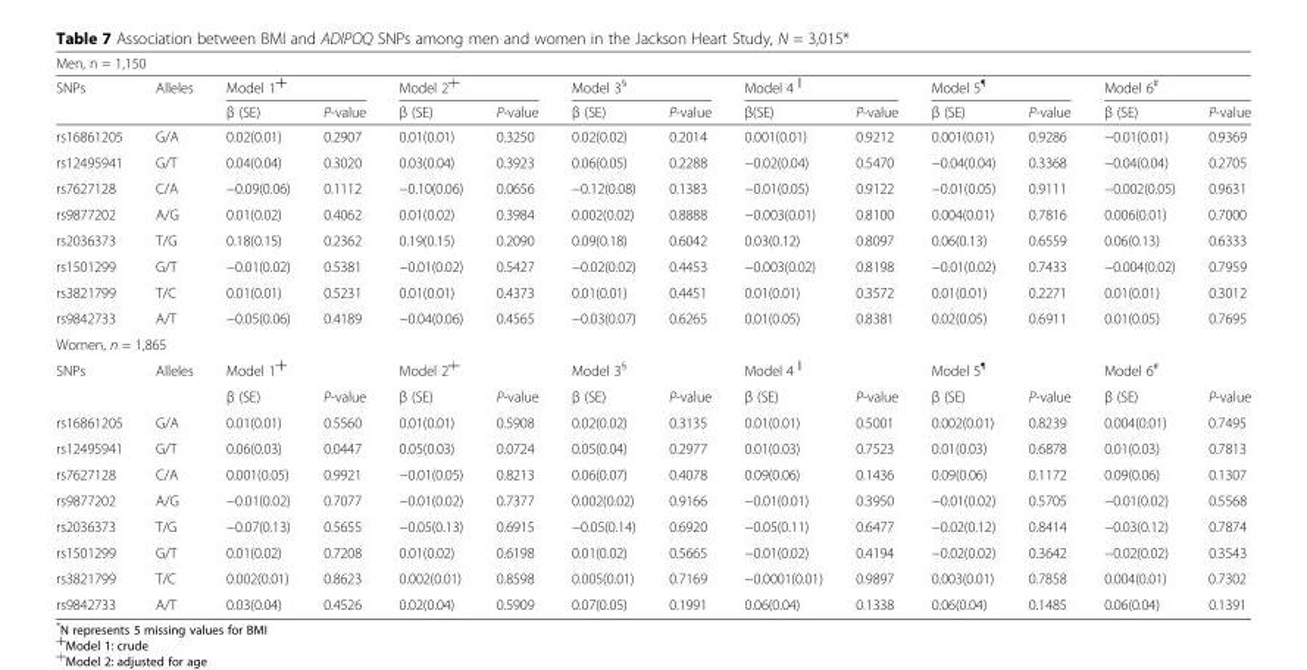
<table><thead><tr><td colspan="14">Men, n = 1,150</td></tr><tr><td rowspan="2">SNPs</td><td rowspan="2">Alleles</td><td colspan="2">Model 1<sup>┼</sup></td><td colspan="2">Model 2<sup>╪</sup></td><td colspan="2">Model 3<sup>§</sup></td><td colspan="2">Model 4<sup>║</sup></td><td colspan="2">Model 5<sup>¶</sup></td><td colspan="2">Model 6<sup>#</sup></td></tr><tr><td>β (SE)</td><td>P-value</td><td>β (SE)</td><td>P-value</td><td>β (SE)</td><td>P-value</td><td>β(SE)</td><td>P-value</td><td>β (SE)</td><td>P-value</td><td>β (SE)</td><td>P-value</td></tr></thead><tbody><tr><td>rs16861205</td><td>G/A</td><td>0.02(0.01)</td><td>0.2907</td><td>0.01(0.01)</td><td>0.3250</td><td>0.02(0.02)</td><td>0.2014</td><td>0.001(0.01)</td><td>0.9212</td><td>0.001(0.01)</td><td>0.9286</td><td>−0.01(0.01)</td><td>0.9369</td></tr><tr><td>rs12495941</td><td>G/T</td><td>0.04(0.04)</td><td>0.3020</td><td>0.03(0.04)</td><td>0.3923</td><td>0.06(0.05)</td><td>0.2288</td><td>−0.02(0.04)</td><td>0.5470</td><td>−0.04(0.04)</td><td>0.3368</td><td>−0.04(0.04)</td><td>0.2705</td></tr><tr><td>rs7627128</td><td>C/A</td><td>−0.09(0.06)</td><td>0.1112</td><td>−0.10(0.06)</td><td>0.0656</td><td>−0.12(0.08)</td><td>0.1383</td><td>−0.01(0.05)</td><td>0.9122</td><td>−0.01(0.05)</td><td>0.9111</td><td>−0.002(0.05)</td><td>0.9631</td></tr><tr><td>rs9877202</td><td>A/G</td><td>0.01(0.02)</td><td>0.4062</td><td>0.01(0.02)</td><td>0.3984</td><td>0.002(0.02)</td><td>0.8888</td><td>−0.003(0.01)</td><td>0.8100</td><td>0.004(0.01)</td><td>0.7816</td><td>0.006(0.01)</td><td>0.7000</td></tr><tr><td>rs2036373</td><td>T/G</td><td>0.18(0.15)</td><td>0.2362</td><td>0.19(0.15)</td><td>0.2090</td><td>0.09(0.18)</td><td>0.6042</td><td>0.03(0.12)</td><td>0.8097</td><td>0.06(0.13)</td><td>0.6559</td><td>0.06(0.13)</td><td>0.6333</td></tr><tr><td>rs1501299</td><td>G/T</td><td>−0.01(0.02)</td><td>0.5381</td><td>−0.01(0.02)</td><td>0.5427</td><td>−0.02(0.02)</td><td>0.4453</td><td>−0.003(0.02)</td><td>0.8198</td><td>−0.01(0.02)</td><td>0.7433</td><td>−0.004(0.02)</td><td>0.7959</td></tr><tr><td>rs3821799</td><td>T/C</td><td>0.01(0.01)</td><td>0.5231</td><td>0.01(0.01)</td><td>0.4373</td><td>0.01(0.01)</td><td>0.4451</td><td>0.01(0.01)</td><td>0.3572</td><td>0.01(0.01)</td><td>0.2271</td><td>0.01(0.01)</td><td>0.3012</td></tr><tr><td>rs9842733</td><td>A/T</td><td>−0.05(0.06)</td><td>0.4189</td><td>−0.04(0.06)</td><td>0.4565</td><td>−0.03(0.07)</td><td>0.6265</td><td>0.01(0.05)</td><td>0.8381</td><td>0.02(0.05)</td><td>0.6911</td><td>0.01(0.05)</td><td>0.7695</td></tr><tr><td colspan="14">Women, n = 1,865</td></tr><tr><td rowspan="2">SNPs</td><td>Alleles</td><td colspan="2">Model 1<sup>┼</sup></td><td colspan="2">Model 2<sup>╪</sup></td><td colspan="2">Model 3<sup>§</sup></td><td colspan="2">Model 4<sup>║</sup></td><td colspan="2">Model 5<sup>¶</sup></td><td colspan="2">Model 6<sup>#</sup></td></tr><tr><td></td><td>β (SE)</td><td>P-value</td><td>β (SE)</td><td>P-value</td><td>β (SE)</td><td>P-value</td><td>β (SE)</td><td>P-value</td><td>β (SE)</td><td>P-value</td><td>β (SE)</td><td>P-value</td></tr><tr><td>rs16861205</td><td>G/A</td><td>0.01(0.01)</td><td>0.5560</td><td>0.01(0.01)</td><td>0.5908</td><td>0.02(0.02)</td><td>0.3135</td><td>0.01(0.01)</td><td>0.5001</td><td>0.002(0.01)</td><td>0.8239</td><td>0.004(0.01)</td><td>0.7495</td></tr><tr><td>rs12495941</td><td>G/T</td><td>0.06(0.03)</td><td>0.0447</td><td>0.05(0.03)</td><td>0.0724</td><td>0.05(0.04)</td><td>0.2977</td><td>0.01(0.03)</td><td>0.7523</td><td>0.01(0.03)</td><td>0.6878</td><td>0.01(0.03)</td><td>0.7813</td></tr><tr><td>rs7627128</td><td>C/A</td><td>0.001(0.05)</td><td>0.9921</td><td>−0.01(0.05)</td><td>0.8213</td><td>0.06(0.07)</td><td>0.4078</td><td>0.09(0.06)</td><td>0.1436</td><td>0.09(0.06)</td><td>0.1172</td><td>0.09(0.06)</td><td>0.1307</td></tr><tr><td>rs9877202</td><td>A/G</td><td>−0.01(0.02)</td><td>0.7077</td><td>−0.01(0.02)</td><td>0.7377</td><td>0.002(0.02)</td><td>0.9166</td><td>−0.01(0.01)</td><td>0.3950</td><td>−0.01(0.02)</td><td>0.5705</td><td>−0.01(0.02)</td><td>0.5568</td></tr><tr><td>rs2036373</td><td>T/G</td><td>−0.07(0.13)</td><td>0.5655</td><td>−0.05(0.13)</td><td>0.6915</td><td>−0.05(0.14)</td><td>0.6920</td><td>−0.05(0.11)</td><td>0.6477</td><td>−0.02(0.12)</td><td>0.8414</td><td>−0.03(0.12)</td><td>0.7874</td></tr><tr><td>rs1501299</td><td>G/T</td><td>0.01(0.02)</td><td>0.7208</td><td>0.01(0.02)</td><td>0.6198</td><td>0.01(0.02)</td><td>0.5665</td><td>−0.01(0.02)</td><td>0.4194</td><td>−0.02(0.02)</td><td>0.3642</td><td>−0.02(0.02)</td><td>0.3543</td></tr><tr><td>rs3821799</td><td>T/C</td><td>0.002(0.01)</td><td>0.8623</td><td>0.002(0.01)</td><td>0.8598</td><td>0.005(0.01)</td><td>0.7169</td><td>−0.0001(0.01)</td><td>0.9897</td><td>0.003(0.01)</td><td>0.7858</td><td>0.004(0.01)</td><td>0.7302</td></tr><tr><td>rs9842733</td><td>A/T</td><td>0.03(0.04)</td><td>0.4526</td><td>0.02(0.04)</td><td>0.5909</td><td>0.07(0.05)</td><td>0.1991</td><td>0.06(0.04)</td><td>0.1338</td><td>0.06(0.04)</td><td>0.1485</td><td>0.06(0.04)</td><td>0.1391</td></tr></tbody></table>